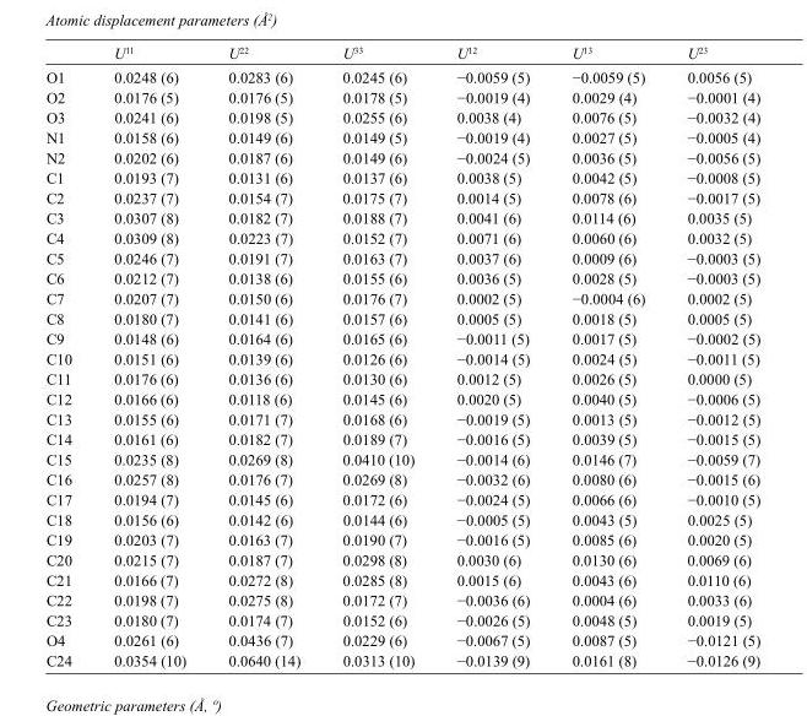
<table><thead><tr><td></td><td>U<sup>11</sup></td><td>U<sup>22</sup></td><td>U<sup>33</sup></td><td>U<sup>12</sup></td><td>U<sup>13</sup></td><td>U<sup>23</sup></td></tr></thead><tbody><tr><td>O1</td><td>0.0248 (6)</td><td>0.0283 (6)</td><td>0.0245 (6)</td><td>−0.0059 (5)</td><td>−0.0059 (5)</td><td>0.0056 (5)</td></tr><tr><td>O2</td><td>0.0176 (5)</td><td>0.0176 (5)</td><td>0.0178 (5)</td><td>−0.0019 (4)</td><td>0.0029 (4)</td><td>−0.0001 (4)</td></tr><tr><td>O3</td><td>0.0241 (6)</td><td>0.0198 (5)</td><td>0.0255 (6)</td><td>0.0038 (4)</td><td>0.0076 (5)</td><td>−0.0032 (4)</td></tr><tr><td>N1</td><td>0.0158 (6)</td><td>0.0149 (6)</td><td>0.0149 (5)</td><td>−0.0019 (4)</td><td>0.0027 (5)</td><td>−0.0005 (4)</td></tr><tr><td>N2</td><td>0.0202 (6)</td><td>0.0187 (6)</td><td>0.0149 (6)</td><td>−0.0024 (5)</td><td>0.0036 (5)</td><td>−0.0056 (5)</td></tr><tr><td>C1</td><td>0.0193 (7)</td><td>0.0131 (6)</td><td>0.0137 (6)</td><td>0.0038 (5)</td><td>0.0042 (5)</td><td>−0.0008 (5)</td></tr><tr><td>C2</td><td>0.0237 (7)</td><td>0.0154 (7)</td><td>0.0175 (7)</td><td>0.0014 (5)</td><td>0.0078 (6)</td><td>−0.0017 (5)</td></tr><tr><td>C3</td><td>0.0307 (8)</td><td>0.0182 (7)</td><td>0.0188 (7)</td><td>0.0041 (6)</td><td>0.0114 (6)</td><td>0.0035 (5)</td></tr><tr><td>C4</td><td>0.0309 (8)</td><td>0.0223 (7)</td><td>0.0152 (7)</td><td>0.0071 (6)</td><td>0.0060 (6)</td><td>0.0032 (5)</td></tr><tr><td>C5</td><td>0.0246 (7)</td><td>0.0191 (7)</td><td>0.0163 (7)</td><td>0.0037 (6)</td><td>0.0009 (6)</td><td>−0.0003 (5)</td></tr><tr><td>C6</td><td>0.0212 (7)</td><td>0.0138 (6)</td><td>0.0155 (6)</td><td>0.0036 (5)</td><td>0.0028 (5)</td><td>−0.0003 (5)</td></tr><tr><td>C7</td><td>0.0207 (7)</td><td>0.0150 (6)</td><td>0.0176 (7)</td><td>0.0002 (5)</td><td>−0.0004 (6)</td><td>0.0002 (5)</td></tr><tr><td>C8</td><td>0.0180 (7)</td><td>0.0141 (6)</td><td>0.0157 (6)</td><td>0.0005 (5)</td><td>0.0018 (5)</td><td>0.0005 (5)</td></tr><tr><td>C9</td><td>0.0148 (6)</td><td>0.0164 (6)</td><td>0.0165 (6)</td><td>−0.0011 (5)</td><td>0.0017 (5)</td><td>−0.0002 (5)</td></tr><tr><td>C10</td><td>0.0151 (6)</td><td>0.0139 (6)</td><td>0.0126 (6)</td><td>−0.0014 (5)</td><td>0.0024 (5)</td><td>−0.0011 (5)</td></tr><tr><td>C11</td><td>0.0176 (6)</td><td>0.0136 (6)</td><td>0.0130 (6)</td><td>0.0012 (5)</td><td>0.0026 (5)</td><td>0.0000 (5)</td></tr><tr><td>C12</td><td>0.0166 (6)</td><td>0.0118 (6)</td><td>0.0145 (6)</td><td>0.0020 (5)</td><td>0.0040 (5)</td><td>−0.0006 (5)</td></tr><tr><td>C13</td><td>0.0155 (6)</td><td>0.0171 (7)</td><td>0.0168 (6)</td><td>−0.0019 (5)</td><td>0.0013 (5)</td><td>−0.0012 (5)</td></tr><tr><td>C14</td><td>0.0161 (6)</td><td>0.0182 (7)</td><td>0.0189 (7)</td><td>−0.0016 (5)</td><td>0.0039 (5)</td><td>−0.0015 (5)</td></tr><tr><td>C15</td><td>0.0235 (8)</td><td>0.0269 (8)</td><td>0.0410 (10)</td><td>−0.0014 (6)</td><td>0.0146 (7)</td><td>−0.0059 (7)</td></tr><tr><td>C16</td><td>0.0257 (8)</td><td>0.0176 (7)</td><td>0.0269 (8)</td><td>−0.0032 (6)</td><td>0.0080 (6)</td><td>−0.0015 (6)</td></tr><tr><td>C17</td><td>0.0194 (7)</td><td>0.0145 (6)</td><td>0.0172 (6)</td><td>−0.0024 (5)</td><td>0.0066 (6)</td><td>−0.0010 (5)</td></tr><tr><td>C18</td><td>0.0156 (6)</td><td>0.0142 (6)</td><td>0.0144 (6)</td><td>−0.0005 (5)</td><td>0.0043 (5)</td><td>0.0025 (5)</td></tr><tr><td>C19</td><td>0.0203 (7)</td><td>0.0163 (7)</td><td>0.0190 (7)</td><td>−0.0016 (5)</td><td>0.0085 (6)</td><td>0.0020 (5)</td></tr><tr><td>C20</td><td>0.0215 (7)</td><td>0.0187 (7)</td><td>0.0298 (8)</td><td>0.0030 (6)</td><td>0.0130 (6)</td><td>0.0069 (6)</td></tr><tr><td>C21</td><td>0.0166 (7)</td><td>0.0272 (8)</td><td>0.0285 (8)</td><td>0.0015 (6)</td><td>0.0043 (6)</td><td>0.0110 (6)</td></tr><tr><td>C22</td><td>0.0198 (7)</td><td>0.0275 (8)</td><td>0.0172 (7)</td><td>−0.0036 (6)</td><td>0.0004 (6)</td><td>0.0033 (6)</td></tr><tr><td>C23</td><td>0.0180 (7)</td><td>0.0174 (7)</td><td>0.0152 (6)</td><td>−0.0026 (5)</td><td>0.0048 (5)</td><td>0.0019 (5)</td></tr><tr><td>O4</td><td>0.0261 (6)</td><td>0.0436 (7)</td><td>0.0229 (6)</td><td>−0.0067 (5)</td><td>0.0087 (5)</td><td>−0.0121 (5)</td></tr><tr><td>C24</td><td>0.0354 (10)</td><td>0.0640 (14)</td><td>0.0313 (10)</td><td>−0.0139 (9)</td><td>0.0161 (8)</td><td>−0.0126 (9)</td></tr></tbody></table>